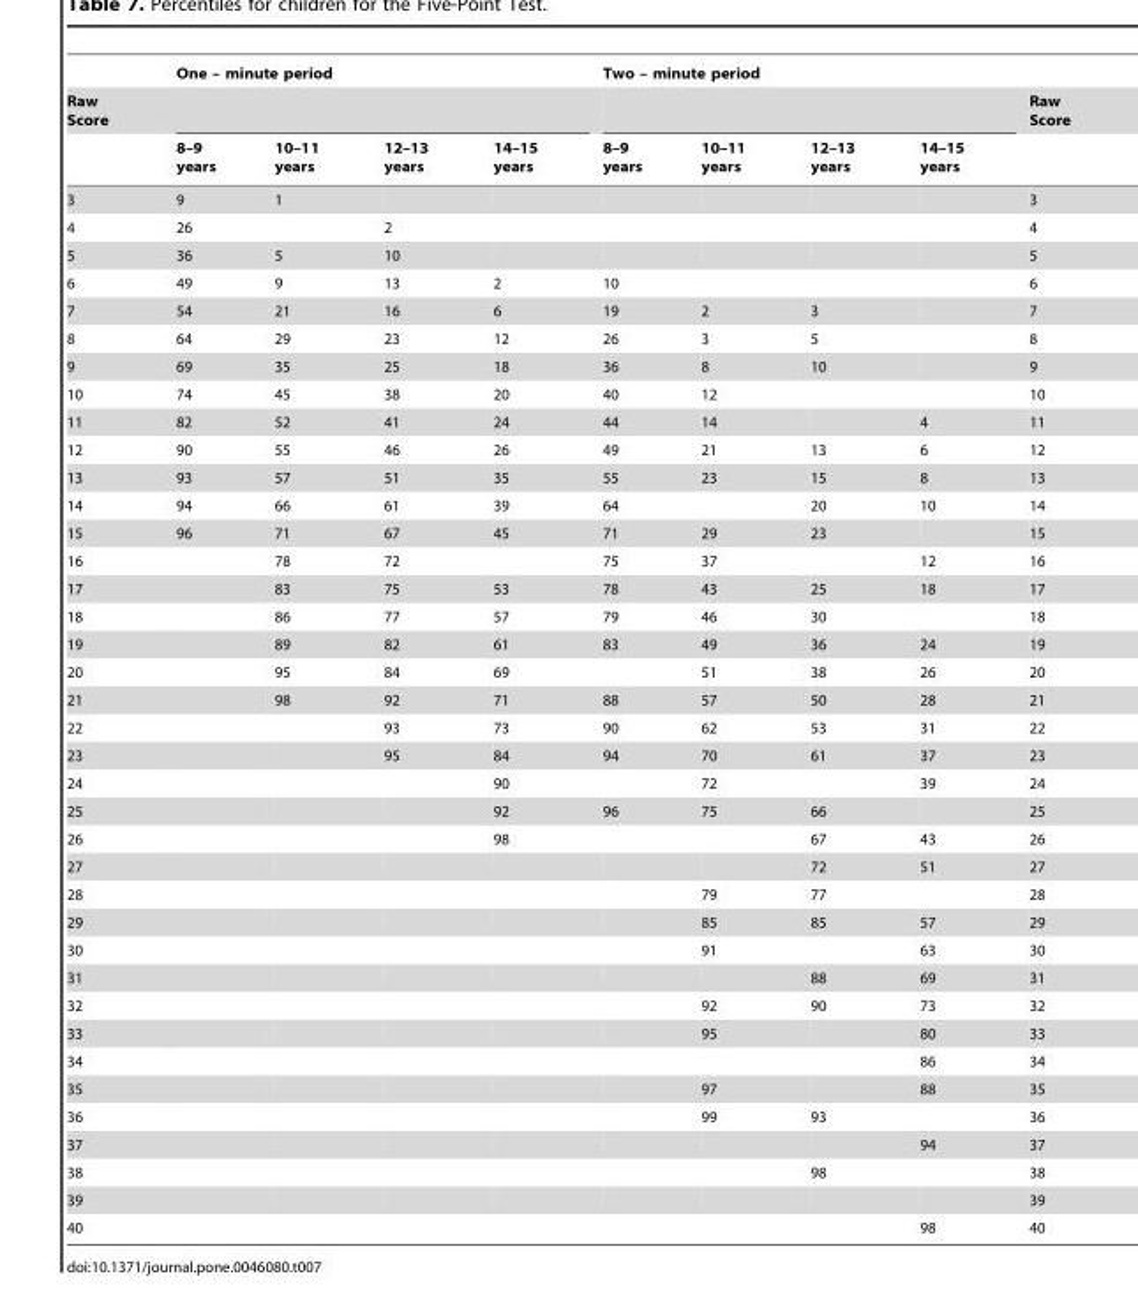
<table><thead><tr><td rowspan="3">Raw Score</td><td colspan="4">One – minute period</td><td colspan="4">Two – minute period</td><td rowspan="3">Raw Score</td></tr><tr><td rowspan="2">8–9 years</td><td rowspan="2">10–11 years</td><td rowspan="2">12–13 years</td><td rowspan="2">14–15 years</td><td rowspan="2">8–9 years</td><td rowspan="2">10–11 years</td><td rowspan="2">12–13 years</td><td rowspan="2">14–15 years</td></tr><tr></tr></thead><tbody><tr><td>3</td><td>9</td><td>1</td><td></td><td></td><td></td><td></td><td></td><td></td><td>3</td></tr><tr><td>4</td><td>26</td><td></td><td>2</td><td></td><td></td><td></td><td></td><td></td><td>4</td></tr><tr><td>5</td><td>36</td><td>5</td><td>10</td><td></td><td></td><td></td><td></td><td></td><td>5</td></tr><tr><td>6</td><td>49</td><td>9</td><td>13</td><td>2</td><td>10</td><td></td><td></td><td></td><td>6</td></tr><tr><td>7</td><td>54</td><td>21</td><td>16</td><td>6</td><td>19</td><td>2</td><td>3</td><td></td><td>7</td></tr><tr><td>8</td><td>64</td><td>29</td><td>23</td><td>12</td><td>26</td><td>3</td><td>5</td><td></td><td>8</td></tr><tr><td>9</td><td>69</td><td>35</td><td>25</td><td>18</td><td>36</td><td>8</td><td>10</td><td></td><td>9</td></tr><tr><td>10</td><td>74</td><td>45</td><td>38</td><td>20</td><td>40</td><td>12</td><td></td><td></td><td>10</td></tr><tr><td>11</td><td>82</td><td>52</td><td>41</td><td>24</td><td>44</td><td>14</td><td></td><td>4</td><td>11</td></tr><tr><td>12</td><td>90</td><td>55</td><td>46</td><td>26</td><td>49</td><td>21</td><td>13</td><td>6</td><td>12</td></tr><tr><td>13</td><td>93</td><td>57</td><td>51</td><td>35</td><td>55</td><td>23</td><td>15</td><td>8</td><td>13</td></tr><tr><td>14</td><td>94</td><td>66</td><td>61</td><td>39</td><td>64</td><td></td><td>20</td><td>10</td><td>14</td></tr><tr><td>15</td><td>96</td><td>71</td><td>67</td><td>45</td><td>71</td><td>29</td><td>23</td><td></td><td>15</td></tr><tr><td>16</td><td></td><td>78</td><td>72</td><td></td><td>75</td><td>37</td><td></td><td>12</td><td>16</td></tr><tr><td>17</td><td></td><td>83</td><td>75</td><td>53</td><td>78</td><td>43</td><td>25</td><td>18</td><td>17</td></tr><tr><td>18</td><td></td><td>86</td><td>77</td><td>57</td><td>79</td><td>46</td><td>30</td><td></td><td>18</td></tr><tr><td>19</td><td></td><td>89</td><td>82</td><td>61</td><td>83</td><td>49</td><td>36</td><td>24</td><td>19</td></tr><tr><td>20</td><td></td><td>95</td><td>84</td><td>69</td><td></td><td>51</td><td>38</td><td>26</td><td>20</td></tr><tr><td>21</td><td></td><td>98</td><td>92</td><td>71</td><td>88</td><td>57</td><td>50</td><td>28</td><td>21</td></tr><tr><td>22</td><td></td><td></td><td>93</td><td>73</td><td>90</td><td>62</td><td>53</td><td>31</td><td>22</td></tr><tr><td>23</td><td></td><td></td><td>95</td><td>84</td><td>94</td><td>70</td><td>61</td><td>37</td><td>23</td></tr><tr><td>24</td><td></td><td></td><td></td><td>90</td><td></td><td>72</td><td></td><td>39</td><td>24</td></tr><tr><td>25</td><td></td><td></td><td></td><td>92</td><td>96</td><td>75</td><td>66</td><td></td><td>25</td></tr><tr><td>26</td><td></td><td></td><td></td><td>98</td><td></td><td></td><td>67</td><td>43</td><td>26</td></tr><tr><td>27</td><td></td><td></td><td></td><td></td><td></td><td></td><td>72</td><td>51</td><td>27</td></tr><tr><td>28</td><td></td><td></td><td></td><td></td><td></td><td>79</td><td>77</td><td></td><td>28</td></tr><tr><td>29</td><td></td><td></td><td></td><td></td><td></td><td>85</td><td>85</td><td>57</td><td>29</td></tr><tr><td>30</td><td></td><td></td><td></td><td></td><td></td><td>91</td><td></td><td>63</td><td>30</td></tr><tr><td>31</td><td></td><td></td><td></td><td></td><td></td><td></td><td>88</td><td>69</td><td>31</td></tr><tr><td>32</td><td></td><td></td><td></td><td></td><td></td><td>92</td><td>90</td><td>73</td><td>32</td></tr><tr><td>33</td><td></td><td></td><td></td><td></td><td></td><td>95</td><td></td><td>80</td><td>33</td></tr><tr><td>34</td><td></td><td></td><td></td><td></td><td></td><td></td><td></td><td>86</td><td>34</td></tr><tr><td>35</td><td></td><td></td><td></td><td></td><td></td><td>97</td><td></td><td>88</td><td>35</td></tr><tr><td>36</td><td></td><td></td><td></td><td></td><td></td><td>99</td><td>93</td><td></td><td>36</td></tr><tr><td>37</td><td></td><td></td><td></td><td></td><td></td><td></td><td></td><td>94</td><td>37</td></tr><tr><td>38</td><td></td><td></td><td></td><td></td><td></td><td></td><td>98</td><td></td><td>38</td></tr><tr><td>39</td><td></td><td></td><td></td><td></td><td></td><td></td><td></td><td></td><td>39</td></tr><tr><td>40</td><td></td><td></td><td></td><td></td><td></td><td></td><td></td><td>98</td><td>40</td></tr></tbody></table>